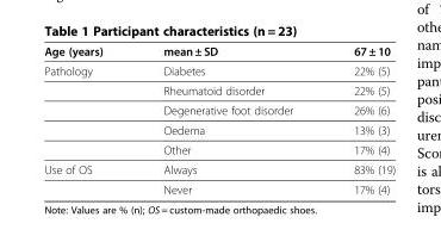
<table><thead><tr><td>Age (years)</td><td>mean ± SD</td><td>67 ± 10</td></tr></thead><tbody><tr><td rowspan="5">Pathology</td><td>Diabetes</td><td>22% (5)</td></tr><tr><td>Rheumatoid disorder</td><td>22% (5)</td></tr><tr><td>Degenerative foot disorder</td><td>26% (6)</td></tr><tr><td>Oedema</td><td>13% (3)</td></tr><tr><td>Other</td><td>17% (4)</td></tr><tr><td rowspan="2">Use of OS</td><td>Always</td><td>83% (19)</td></tr><tr><td>Never</td><td>17% (4)</td></tr></tbody></table>